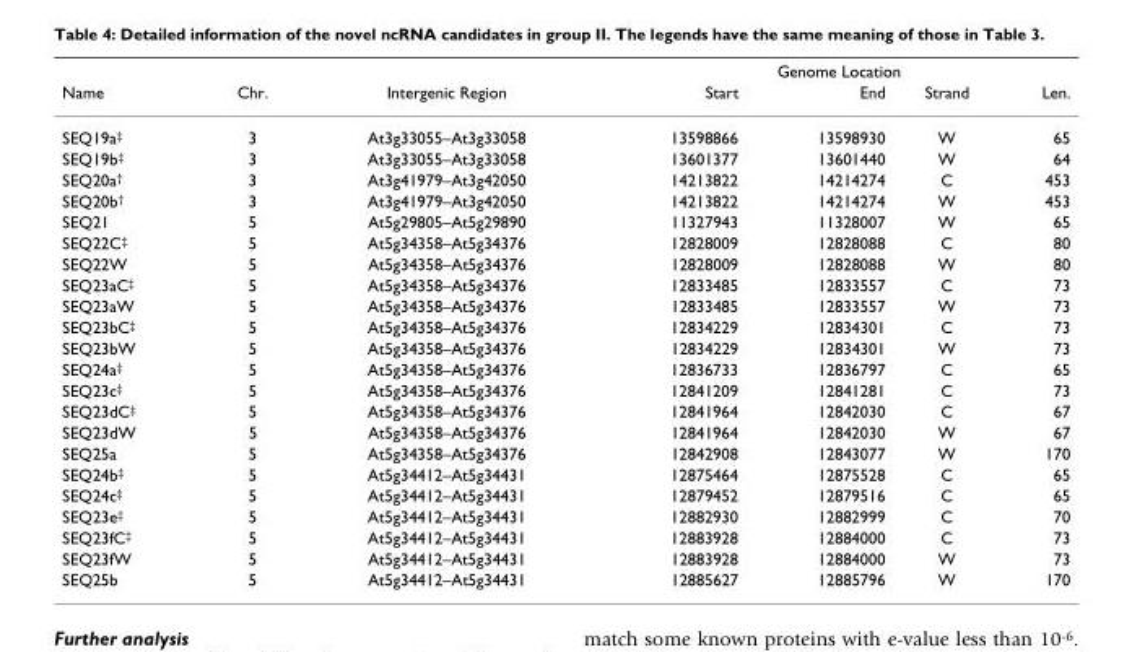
<table><thead><tr><td rowspan="2">Name</td><td rowspan="2">Chr.</td><td rowspan="2">Intergenic Region</td><td colspan="4">Genome Location</td></tr><tr><td>Start</td><td>End</td><td>Strand</td><td>Len.</td></tr></thead><tbody><tr><td>SEQ19a<sup>‡</sup></td><td>3</td><td>At3g33055–At3g33058</td><td>13598866</td><td>13598930</td><td>W</td><td>65</td></tr><tr><td>SEQ19b<sup>‡</sup></td><td>3</td><td>At3g33055–At3g33058</td><td>13601377</td><td>13601440</td><td>W</td><td>64</td></tr><tr><td>SEQ20a<sup>†</sup></td><td>3</td><td>At3g41979–At3g42050</td><td>14213822</td><td>14214274</td><td>C</td><td>453</td></tr><tr><td>SEQ20b<sup>†</sup></td><td>3</td><td>At3g41979–At3g42050</td><td>14213822</td><td>14214274</td><td>W</td><td>453</td></tr><tr><td>SEQ21</td><td>5</td><td>At5g29805–At5g29890</td><td>11327943</td><td>11328007</td><td>W</td><td>65</td></tr><tr><td>SEQ22C<sup>‡</sup></td><td>5</td><td>At5g34358–At5g34376</td><td>12828009</td><td>12828088</td><td>C</td><td>80</td></tr><tr><td>SEQ22W</td><td>5</td><td>At5g34358–At5g34376</td><td>12828009</td><td>12828088</td><td>W</td><td>80</td></tr><tr><td>SEQ23aC<sup>‡</sup></td><td>5</td><td>At5g34358–At5g34376</td><td>12833485</td><td>12833557</td><td>C</td><td>73</td></tr><tr><td>SEQ23aW</td><td>5</td><td>At5g34358–At5g34376</td><td>12833485</td><td>12833557</td><td>W</td><td>73</td></tr><tr><td>SEQ23bC<sup>‡</sup></td><td>5</td><td>At5g34358–At5g34376</td><td>12834229</td><td>12834301</td><td>C</td><td>73</td></tr><tr><td>SEQ23bW</td><td>5</td><td>At5g34358–At5g34376</td><td>12834229</td><td>12834301</td><td>W</td><td>73</td></tr><tr><td>SEQ24a<sup>‡</sup></td><td>5</td><td>At5g34358–At5g34376</td><td>12836733</td><td>12836797</td><td>C</td><td>65</td></tr><tr><td>SEQ23c<sup>‡</sup></td><td>5</td><td>At5g34358–At5g34376</td><td>12841209</td><td>12841281</td><td>C</td><td>73</td></tr><tr><td>SEQ23dC<sup>‡</sup></td><td>5</td><td>At5g34358–At5g34376</td><td>12841964</td><td>12842030</td><td>C</td><td>67</td></tr><tr><td>SEQ23dW</td><td>5</td><td>At5g34358–At5g34376</td><td>12841964</td><td>12842030</td><td>W</td><td>67</td></tr><tr><td>SEQ25a</td><td>5</td><td>At5g34358–At5g34376</td><td>12842908</td><td>12843077</td><td>W</td><td>170</td></tr><tr><td>SEQ24b<sup>‡</sup></td><td>5</td><td>At5g34412–At5g34431</td><td>12875464</td><td>12875528</td><td>C</td><td>65</td></tr><tr><td>SEQ24c<sup>‡</sup></td><td>5</td><td>At5g34412–At5g34431</td><td>12879452</td><td>12879516</td><td>C</td><td>65</td></tr><tr><td>SEQ23e<sup>‡</sup></td><td>5</td><td>At5g34412–At5g34431</td><td>12882930</td><td>12882999</td><td>C</td><td>70</td></tr><tr><td>SEQ23fC<sup>‡</sup></td><td>5</td><td>At5g34412–At5g34431</td><td>12883928</td><td>12884000</td><td>C</td><td>73</td></tr><tr><td>SEQ23fW</td><td>5</td><td>At5g34412–At5g34431</td><td>12883928</td><td>12884000</td><td>W</td><td>73</td></tr><tr><td>SEQ25b</td><td>5</td><td>At5g34412–At5g34431</td><td>12885627</td><td>12885796</td><td>W</td><td>170</td></tr></tbody></table>